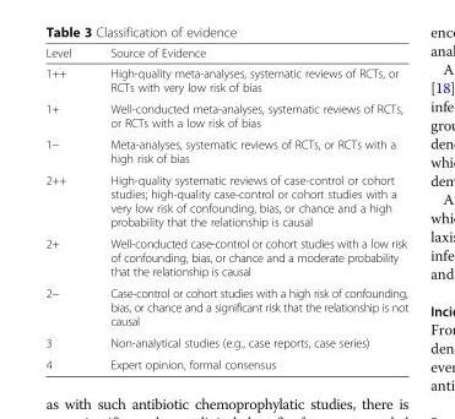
<table><thead><tr><td>Level</td><td>Source of Evidence</td></tr></thead><tbody><tr><td>1++</td><td>High-quality meta-analyses, systematic reviews of RCTs, or RCTs with very low risk of bias</td></tr><tr><td>1+</td><td>Well-conducted meta-analyses, systematic reviews of RCTs, or RCTs with a low risk of bias</td></tr><tr><td>1−</td><td>Meta-analyses, systematic reviews of RCTs, or RCTs with a high risk of bias</td></tr><tr><td>2++</td><td>High-quality systematic reviews of case-control or cohort studies; high-quality case-control or cohort studies with a very low risk of confounding, bias, or chance and a high probability that the relationship is causal</td></tr><tr><td>2+</td><td>Well-conducted case-control or cohort studies with a low risk of confounding, bias, or chance and a moderate probability that the relationship is causal</td></tr><tr><td>2−</td><td>Case-control or cohort studies with a high risk of confounding, bias, or chance and a significant risk that the relationship is not causal</td></tr><tr><td>3</td><td>Non-analytical studies (e.g., case reports, case series)</td></tr><tr><td>4</td><td>Expert opinion, formal consensus</td></tr></tbody></table>